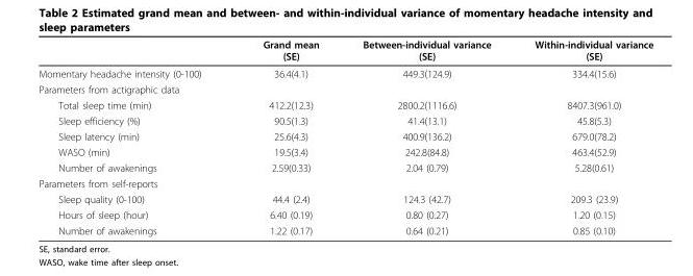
<table><thead><tr><td></td><td>Grand mean (SE)</td><td>Between-individual variance (SE)</td><td>Within-individual variance (SE)</td></tr></thead><tbody><tr><td>Momentary headache intensity (0-100)</td><td>36.4(4.1)</td><td>449.3(124.9)</td><td>334.4(15.6)</td></tr><tr><td colspan="4">Parameters from actigraphic data</td></tr><tr><td>Total sleep time (min)</td><td>412.2(12.3)</td><td>2800.2(1116.6)</td><td>8407.3(961.0)</td></tr><tr><td>Sleep efficiency (%)</td><td>90.5(1.3)</td><td>41.4(13.1)</td><td>45.8(5.3)</td></tr><tr><td>Sleep latency (min)</td><td>25.6(4.3)</td><td>400.9(136.2)</td><td>679.0(78.2)</td></tr><tr><td>WASO (min)</td><td>19.5(3.4)</td><td>242.8(84.8)</td><td>463.4(52.9)</td></tr><tr><td>Number of awakenings</td><td>2.59(0.33)</td><td>2.04 (0.79)</td><td>5.28(0.61)</td></tr><tr><td colspan="4">Parameters from self-reports</td></tr><tr><td>Sleep quality (0-100)</td><td>44.4 (2.4)</td><td>124.3 (42.7)</td><td>209.3 (23.9)</td></tr><tr><td>Hours of sleep (hour)</td><td>6.40 (0.19)</td><td>0.80 (0.27)</td><td>1.20 (0.15)</td></tr><tr><td>Number of awakenings</td><td>1.22 (0.17)</td><td>0.64 (0.21)</td><td>0.85 (0.10)</td></tr></tbody></table>